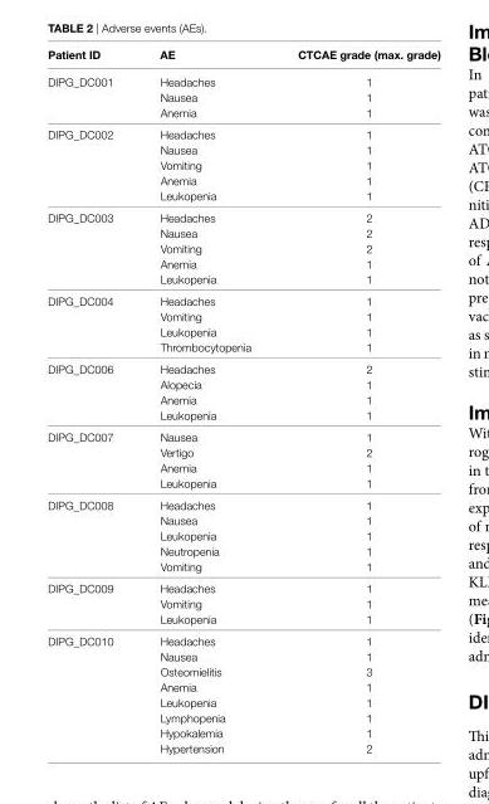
<table><thead><tr><td>Patient iD</td><td>aE</td><td>CTCaE grade (max. grade)</td></tr></thead><tbody><tr><td rowspan="3">DIPG_DC001</td><td>Headaches</td><td>1</td></tr><tr><td>Nausea</td><td>1</td></tr><tr><td>Anemia</td><td>1</td></tr><tr><td rowspan="5">DIPG_DC002</td><td>Headaches</td><td>1</td></tr><tr><td>Nausea</td><td>1</td></tr><tr><td>Vomiting</td><td>1</td></tr><tr><td>Anemia</td><td>1</td></tr><tr><td>Leukopenia</td><td>1</td></tr><tr><td rowspan="5">DIPG_DC003</td><td>Headaches</td><td>2</td></tr><tr><td>Nausea</td><td>2</td></tr><tr><td>Vomiting</td><td>2</td></tr><tr><td>Anemia</td><td>1</td></tr><tr><td>Leukopenia</td><td>1</td></tr><tr><td rowspan="4">DIPG_DC004</td><td>Headaches</td><td>1</td></tr><tr><td>Vomiting</td><td>1</td></tr><tr><td>Leukopenia</td><td>1</td></tr><tr><td>Thrombocytopenia</td><td>1</td></tr><tr><td rowspan="4">DIPG_DC006</td><td>Headaches</td><td>2</td></tr><tr><td>Alopecia</td><td>1</td></tr><tr><td>Anemia</td><td>1</td></tr><tr><td>Leukopenia</td><td>1</td></tr><tr><td rowspan="4">DIPG_DC007</td><td>Nausea</td><td>1</td></tr><tr><td>Vertigo</td><td>2</td></tr><tr><td>Anemia</td><td>1</td></tr><tr><td>Leukopenia</td><td>1</td></tr><tr><td rowspan="5">DIPG_DC008</td><td>Headaches</td><td>1</td></tr><tr><td>Nausea</td><td>1</td></tr><tr><td>Leukopenia</td><td>1</td></tr><tr><td>Neutropenia</td><td>1</td></tr><tr><td>Vomiting</td><td>1</td></tr><tr><td rowspan="3">DIPG_DC009</td><td>Headaches</td><td>1</td></tr><tr><td>Vomiting</td><td>1</td></tr><tr><td>Leukopenia</td><td>1</td></tr><tr><td rowspan="8">DIPG_DC010</td><td>Headaches</td><td>1</td></tr><tr><td>Nausea</td><td>1</td></tr><tr><td>Osteomielitis</td><td>3</td></tr><tr><td>Anemia</td><td>1</td></tr><tr><td>Leukopenia</td><td>1</td></tr><tr><td>Lymphopenia</td><td>1</td></tr><tr><td>Hypokalemia</td><td>1</td></tr><tr><td>Hypertension</td><td>2</td></tr></tbody></table>